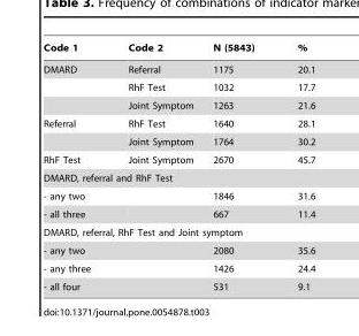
<table><thead><tr><td>Code 1</td><td>Code 2</td><td>N (5843)</td><td>%</td></tr></thead><tbody><tr><td rowspan="3">DMARD</td><td>Referral</td><td>1175</td><td>20.1</td></tr><tr><td>RhF Test</td><td>1032</td><td>17.7</td></tr><tr><td>Joint Symptom</td><td>1263</td><td>21.6</td></tr><tr><td rowspan="2">Referral</td><td>RhF Test</td><td>1640</td><td>28.1</td></tr><tr><td>Joint Symptom</td><td>1764</td><td>30.2</td></tr><tr><td>RhF Test</td><td>Joint Symptom</td><td>2670</td><td>45.7</td></tr><tr><td colspan="4">DMARD, referral and RhF Test</td></tr><tr><td>- any two</td><td></td><td>1846</td><td>31.6</td></tr><tr><td>- all three</td><td></td><td>667</td><td>11.4</td></tr><tr><td colspan="4">DMARD, referral, RhF Test and Joint symptom</td></tr><tr><td colspan="2">- any two</td><td>2080</td><td>35.6</td></tr><tr><td colspan="2">- any three</td><td>1426</td><td>24.4</td></tr><tr><td colspan="2">- all four</td><td>531</td><td>9.1</td></tr></tbody></table>